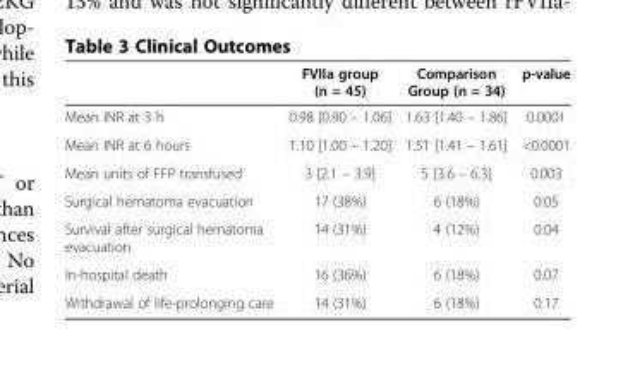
<table><thead><tr><td></td><td>FVIIa group (n = 45)</td><td>Comparison Group (n = 34)</td><td>p-value</td></tr></thead><tbody><tr><td>Mean INR at 3 h</td><td>0.98 [0.90 – 1.06]</td><td>1.63 [1.40 – 1.86]</td><td>0.0001</td></tr><tr><td>Mean INR at 6 hours</td><td>1.10 [1.00 – 1.20]</td><td>1.51 [1.41 – 1.61]</td><td>&lt;0.0001</td></tr><tr><td>Mean units of FFP transfused</td><td>3 [2.1 – 3.9]</td><td>5 [3.6 – 6.3]</td><td>0.003</td></tr><tr><td>Surgical hematoma evacuation</td><td>17 (38%)</td><td>6 (18%)</td><td>0.05</td></tr><tr><td>Survival after surgical hematoma evacuation</td><td>14 (31%)</td><td>4 (12%)</td><td>0.04</td></tr><tr><td>In-hospital death</td><td>16 (36%)</td><td>6 (18%)</td><td>0.07</td></tr><tr><td>Withdrawal of life-prolonging care</td><td>14 (31%)</td><td>6 (18%)</td><td>0.17</td></tr></tbody></table>